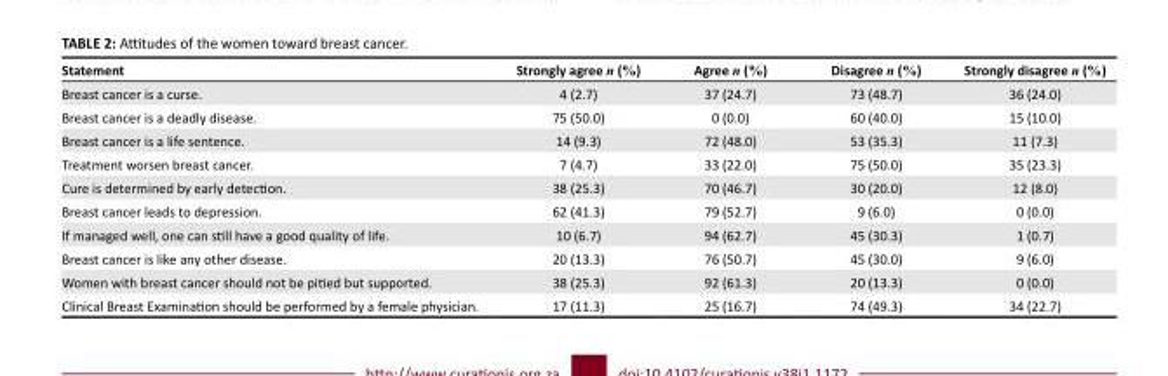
<table><thead><tr><td>Statement</td><td>Strongly agree n (%)</td><td>Agree n (%)</td><td>Disagree n (%)</td><td>Strongly disagree n (%)</td></tr></thead><tbody><tr><td>Breast cancer is a curse.</td><td>4 (2.7)</td><td>37 (24.7)</td><td>73 (48.7)</td><td>36 (24.0)</td></tr><tr><td>Breast cancer is a deadly disease.</td><td>75 (50.0)</td><td>0 (0.0)</td><td>60 (40.0)</td><td>15 (10.0)</td></tr><tr><td>Breast cancer is a life sentence.</td><td>14 (9.3)</td><td>72 (48.0)</td><td>53 (35.3)</td><td>11 (7.3)</td></tr><tr><td>Treatment worsen breast cancer.</td><td>7 (4.7)</td><td>33 (22.0)</td><td>75 (50.0)</td><td>35 (23.3)</td></tr><tr><td>Cure is determined by early detection.</td><td>38 (25.3)</td><td>70 (46.7)</td><td>30 (20.0)</td><td>12 (8.0)</td></tr><tr><td>Breast cancer leads to depression.</td><td>62 (41.3)</td><td>79 (52.7)</td><td>9 (6.0)</td><td>0 (0.0)</td></tr><tr><td>If managed well, one can still have a good quality of life.</td><td>10 (6.7)</td><td>94 (62.7)</td><td>45 (30.3)</td><td>1 (0.7)</td></tr><tr><td>Breast cancer is like any other disease.</td><td>20 (13.3)</td><td>76 (50.7)</td><td>45 (30.0)</td><td>9 (6.0)</td></tr><tr><td>Women with breast cancer should not be pitied but supported.</td><td>38 (25.3)</td><td>92 (61.3)</td><td>20 (13.3)</td><td>0 (0.0)</td></tr><tr><td>Clinical Breast Examination should be performed by a female physician.</td><td>17 (11.3)</td><td>25 (16.7)</td><td>74 (49.3)</td><td>34 (22.7)</td></tr></tbody></table>